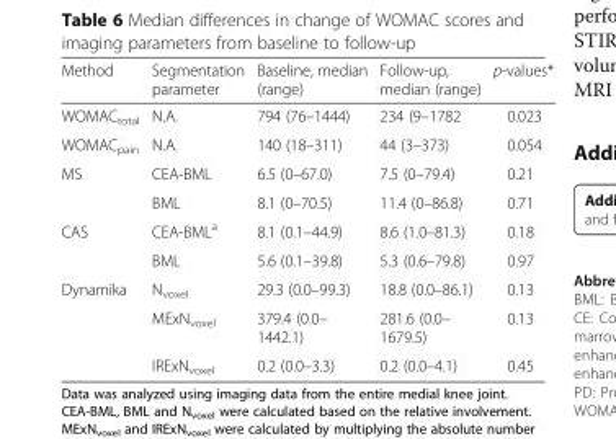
<table><thead><tr><td>Method</td><td>Segmentation parameter</td><td>Baseline, median (range)</td><td>Follow-up, median (range)</td><td>p-values*</td></tr></thead><tbody><tr><td>WOMAC<sub>total</sub></td><td>N.A.</td><td>794 (76–1444)</td><td>234 (9–1782</td><td>0.023</td></tr><tr><td>WOMAC<sub>pain</sub></td><td>N.A.</td><td>140 (18–311)</td><td>44 (3–373)</td><td>0.054</td></tr><tr><td rowspan="2">MS</td><td>CEA-BML</td><td>6.5 (0–67.0)</td><td>7.5 (0–79.4)</td><td>0.21</td></tr><tr><td>BML</td><td>8.1 (0–70.5)</td><td>11.4 (0–86.8)</td><td>0.71</td></tr><tr><td rowspan="2">CAS</td><td>CEA-BML<sup>a</sup></td><td>8.1 (0.1–44.9)</td><td>8.6 (1.0–81.3)</td><td>0.18</td></tr><tr><td>BML</td><td>5.6 (0.1–39.8)</td><td>5.3 (0.6–79.8)</td><td>0.97</td></tr><tr><td rowspan="3">Dynamika</td><td>N<sub>voxel</sub></td><td>29.3 (0.0–99.3)</td><td>18.8 (0.0–86.1)</td><td>0.13</td></tr><tr><td>MExN<sub>voxel</sub></td><td>379.4 (0.0– 1442.1)</td><td>281.6 (0.0– 1679.5)</td><td>0.13</td></tr><tr><td>IRExN<sub>voxel</sub></td><td>0.2 (0.0–3.3)</td><td>0.2 (0.0–4.1)</td><td>0.45</td></tr></tbody></table>